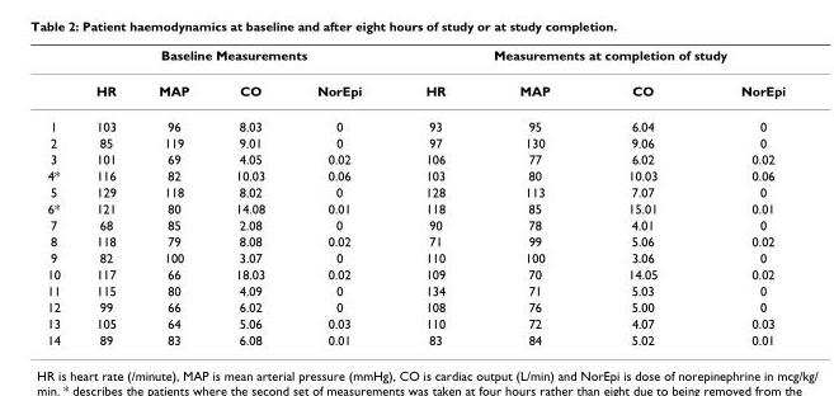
<table><thead><tr><td rowspan="2"></td><td colspan="4">Baseline Measurements</td><td colspan="4">Measurements at completion of study</td></tr><tr><td>HR</td><td>MAP</td><td>CO</td><td>NorEpi</td><td>HR</td><td>MAP</td><td>CO</td><td>NorEpi</td></tr></thead><tbody><tr><td>1</td><td>103</td><td>96</td><td>8.03</td><td>0</td><td>93</td><td>95</td><td>6.04</td><td>0</td></tr><tr><td>2</td><td>85</td><td>119</td><td>9.01</td><td>0</td><td>97</td><td>130</td><td>9.06</td><td>0</td></tr><tr><td>3</td><td>101</td><td>69</td><td>4.05</td><td>0.02</td><td>106</td><td>77</td><td>6.02</td><td>0.02</td></tr><tr><td>4*</td><td>116</td><td>82</td><td>10.03</td><td>0.06</td><td>103</td><td>80</td><td>10.03</td><td>0.06</td></tr><tr><td>5</td><td>129</td><td>118</td><td>8.02</td><td>0</td><td>128</td><td>113</td><td>7.07</td><td>0</td></tr><tr><td>6*</td><td>121</td><td>80</td><td>14.08</td><td>0.01</td><td>118</td><td>85</td><td>15.01</td><td>0.01</td></tr><tr><td>7</td><td>68</td><td>85</td><td>2.08</td><td>0</td><td>90</td><td>78</td><td>4.01</td><td>0</td></tr><tr><td>8</td><td>118</td><td>79</td><td>8.08</td><td>0.02</td><td>71</td><td>99</td><td>5.06</td><td>0.02</td></tr><tr><td>9</td><td>82</td><td>100</td><td>3.07</td><td>0</td><td>110</td><td>100</td><td>3.06</td><td>0</td></tr><tr><td>10</td><td>117</td><td>66</td><td>18.03</td><td>0.02</td><td>109</td><td>70</td><td>14.05</td><td>0.02</td></tr><tr><td>11</td><td>115</td><td>80</td><td>4.09</td><td>0</td><td>134</td><td>71</td><td>5.03</td><td>0</td></tr><tr><td>12</td><td>99</td><td>66</td><td>6.02</td><td>0</td><td>108</td><td>76</td><td>5.00</td><td>0</td></tr><tr><td>13</td><td>105</td><td>64</td><td>5.06</td><td>0.03</td><td>110</td><td>72</td><td>4.07</td><td>0.03</td></tr><tr><td>14</td><td>89</td><td>83</td><td>6.08</td><td>0.01</td><td>83</td><td>84</td><td>5.02</td><td>0.01</td></tr></tbody></table>